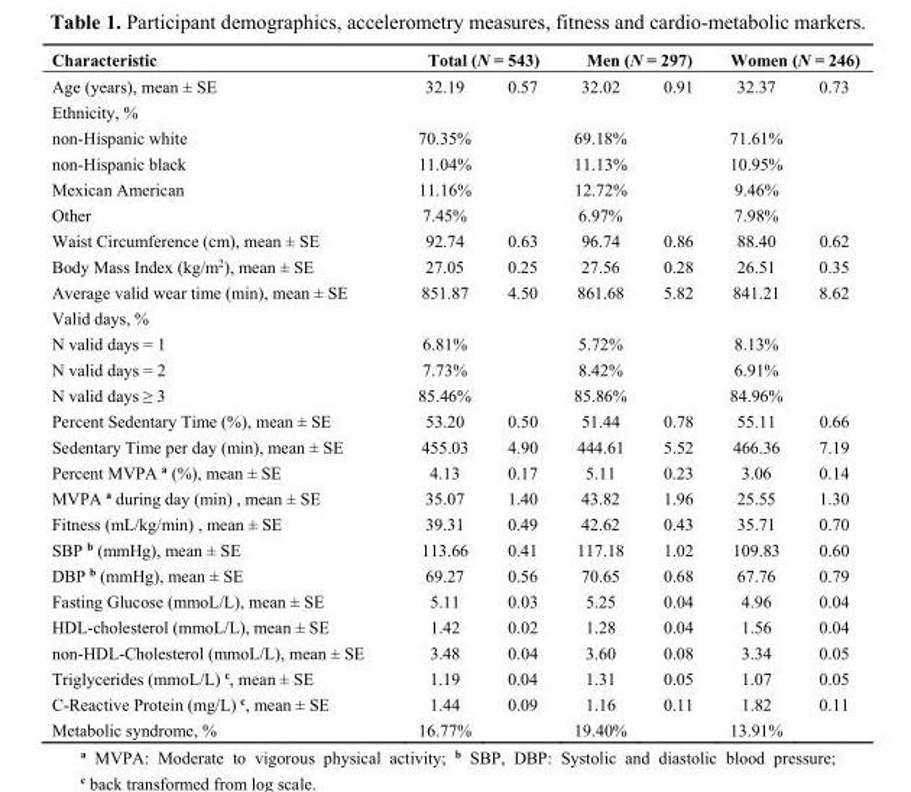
<table><thead><tr><td rowspan="2">Characteristic Age (years), mean ± SE</td><td colspan="2">Total (N = 543)</td><td colspan="2">Men (N = 297)</td><td colspan="2">Women (N = 246)</td></tr><tr><td>32.19</td><td>0.57</td><td>32.02</td><td>0.91</td><td>32.37</td><td>0.73</td></tr></thead><tbody><tr><td colspan="7">Ethnicity, %</td></tr><tr><td>non-Hispanic white</td><td>70.35%</td><td></td><td>69.18%</td><td></td><td>71.61%</td><td></td></tr><tr><td>non-Hispanic black</td><td>11.04%</td><td></td><td>11.13%</td><td></td><td>10.95%</td><td></td></tr><tr><td>Mexican American</td><td>11.16%</td><td></td><td>12.72%</td><td></td><td>9.46%</td><td></td></tr><tr><td>Other</td><td>7.45%</td><td></td><td>6.97%</td><td></td><td>7.98%</td><td></td></tr><tr><td>Waist Circumference (cm), mean ± SE</td><td>92.74</td><td>0.63</td><td>96.74</td><td>0.86</td><td>88.40</td><td>0.62</td></tr><tr><td>Body Mass Index (kg/m<sup>2</sup>), mean ± SE</td><td>27.05</td><td>0.25</td><td>27.56</td><td>0.28</td><td>26.51</td><td>0.35</td></tr><tr><td>Average valid wear time (min), mean ± SE</td><td>851.87</td><td>4.50</td><td>861.68</td><td>5.82</td><td>841.21</td><td>8.62</td></tr><tr><td colspan="7">Valid days, %</td></tr><tr><td>N valid days = 1</td><td>6.81%</td><td></td><td>5.72%</td><td></td><td>8.13%</td><td></td></tr><tr><td>N valid days = 2</td><td>7.73%</td><td></td><td>8.42%</td><td></td><td>6.91%</td><td></td></tr><tr><td>N valid days ≥ 3</td><td>85.46%</td><td></td><td>85.86%</td><td></td><td>84.96%</td><td></td></tr><tr><td>Percent Sedentary Time (%), mean ± SE</td><td>53.20</td><td>0.50</td><td>51.44</td><td>0.78</td><td>55.11</td><td>0.66</td></tr><tr><td>Sedentary Time per day (min), mean ± SE</td><td>455.03</td><td>4.90</td><td>444.61</td><td>5.52</td><td>466.36</td><td>7.19</td></tr><tr><td>Percent MVPA <sup>a</sup> (%), mean ± SE</td><td>4.13</td><td>0.17</td><td>5.11</td><td>0.23</td><td>3.06</td><td>0.14</td></tr><tr><td>MVPA <sup>a</sup> during day (min) , mean ± SE</td><td>35.07</td><td>1.40</td><td>43.82</td><td>1.96</td><td>25.55</td><td>1.30</td></tr><tr><td>Fitness (mL/kg/min) , mean ± SE</td><td>39.31</td><td>0.49</td><td>42.62</td><td>0.43</td><td>35.71</td><td>0.70</td></tr><tr><td>SBP <sup>b</sup> (mmHg), mean ± SE</td><td>113.66</td><td>0.41</td><td>117.18</td><td>1.02</td><td>109.83</td><td>0.60</td></tr><tr><td>DBP <sup>b</sup> (mmHg), mean ± SE</td><td>69.27</td><td>0.56</td><td>70.65</td><td>0.68</td><td>67.76</td><td>0.79</td></tr><tr><td>Fasting Glucose (mmoL/L), mean ± SE</td><td>5.11</td><td>0.03</td><td>5.25</td><td>0.04</td><td>4.96</td><td>0.04</td></tr><tr><td>HDL-cholesterol (mmoL/L), mean ± SE</td><td>1.42</td><td>0.02</td><td>1.28</td><td>0.04</td><td>1.56</td><td>0.04</td></tr><tr><td>non-HDL-Cholesterol (mmoL/L), mean ± SE</td><td>3.48</td><td>0.04</td><td>3.60</td><td>0.08</td><td>3.34</td><td>0.05</td></tr><tr><td>Triglycerides (mmoL/L) <sup>c</sup>, mean ± SE</td><td>1.19</td><td>0.04</td><td>1.31</td><td>0.05</td><td>1.07</td><td>0.05</td></tr><tr><td>C-Reactive Protein (mg/L) <sup>c</sup>, mean ± SE</td><td>1.44</td><td>0.09</td><td>1.16</td><td>0.11</td><td>1.82</td><td>0.11</td></tr><tr><td>Metabolic syndrome, %</td><td>16.77%</td><td></td><td>19.40%</td><td></td><td>13.91%</td><td></td></tr></tbody></table>